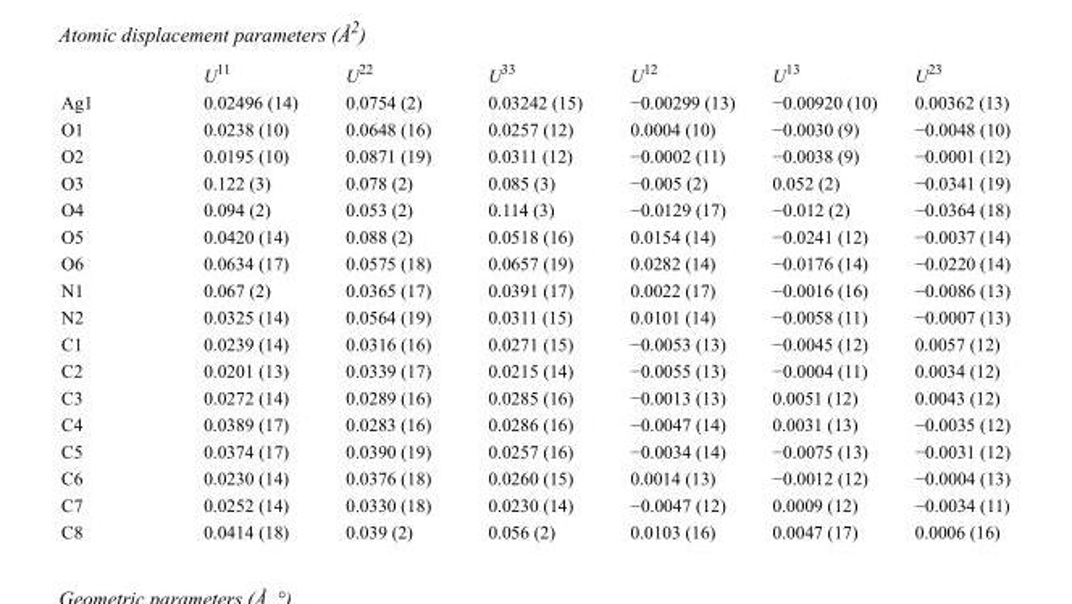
<table><thead><tr><td></td><td>U<sup>11</sup></td><td>U<sup>22</sup></td><td>U<sup>33</sup></td><td>U<sup>12</sup></td><td>U<sup>13</sup></td><td>U<sup>23</sup></td></tr></thead><tbody><tr><td>Ag1</td><td>0.02496 (14)</td><td>0.0754 (2)</td><td>0.03242 (15)</td><td>−0.00299 (13)</td><td>−0.00920 (10)</td><td>0.00362 (13)</td></tr><tr><td>O1</td><td>0.0238 (10)</td><td>0.0648 (16)</td><td>0.0257 (12)</td><td>0.0004 (10)</td><td>−0.0030 (9)</td><td>−0.0048 (10)</td></tr><tr><td>O2</td><td>0.0195 (10)</td><td>0.0871 (19)</td><td>0.0311 (12)</td><td>−0.0002 (11)</td><td>−0.0038 (9)</td><td>−0.0001 (12)</td></tr><tr><td>O3</td><td>0.122 (3)</td><td>0.078 (2)</td><td>0.085 (3)</td><td>−0.005 (2)</td><td>0.052 (2)</td><td>−0.0341 (19)</td></tr><tr><td>O4</td><td>0.094 (2)</td><td>0.053 (2)</td><td>0.114 (3)</td><td>−0.0129 (17)</td><td>−0.012 (2)</td><td>−0.0364 (18)</td></tr><tr><td>O5</td><td>0.0420 (14)</td><td>0.088 (2)</td><td>0.0518 (16)</td><td>0.0154 (14)</td><td>−0.0241 (12)</td><td>−0.0037 (14)</td></tr><tr><td>O6</td><td>0.0634 (17)</td><td>0.0575 (18)</td><td>0.0657 (19)</td><td>0.0282 (14)</td><td>−0.0176 (14)</td><td>−0.0220 (14)</td></tr><tr><td>N1</td><td>0.067 (2)</td><td>0.0365 (17)</td><td>0.0391 (17)</td><td>0.0022 (17)</td><td>−0.0016 (16)</td><td>−0.0086 (13)</td></tr><tr><td>N2</td><td>0.0325 (14)</td><td>0.0564 (19)</td><td>0.0311 (15)</td><td>0.0101 (14)</td><td>−0.0058 (11)</td><td>−0.0007 (13)</td></tr><tr><td>C1</td><td>0.0239 (14)</td><td>0.0316 (16)</td><td>0.0271 (15)</td><td>−0.0053 (13)</td><td>−0.0045 (12)</td><td>0.0057 (12)</td></tr><tr><td>C2</td><td>0.0201 (13)</td><td>0.0339 (17)</td><td>0.0215 (14)</td><td>−0.0055 (13)</td><td>−0.0004 (11)</td><td>0.0034 (12)</td></tr><tr><td>C3</td><td>0.0272 (14)</td><td>0.0289 (16)</td><td>0.0285 (16)</td><td>−0.0013 (13)</td><td>0.0051 (12)</td><td>0.0043 (12)</td></tr><tr><td>C4</td><td>0.0389 (17)</td><td>0.0283 (16)</td><td>0.0286 (16)</td><td>−0.0047 (14)</td><td>0.0031 (13)</td><td>−0.0035 (12)</td></tr><tr><td>C5</td><td>0.0374 (17)</td><td>0.0390 (19)</td><td>0.0257 (16)</td><td>−0.0034 (14)</td><td>−0.0075 (13)</td><td>−0.0031 (12)</td></tr><tr><td>C6</td><td>0.0230 (14)</td><td>0.0376 (18)</td><td>0.0260 (15)</td><td>0.0014 (13)</td><td>−0.0012 (12)</td><td>−0.0004 (13)</td></tr><tr><td>C7</td><td>0.0252 (14)</td><td>0.0330 (18)</td><td>0.0230 (14)</td><td>−0.0047 (12)</td><td>0.0009 (12)</td><td>−0.0034 (11)</td></tr><tr><td>C8</td><td>0.0414 (18)</td><td>0.039 (2)</td><td>0.056 (2)</td><td>0.0103 (16)</td><td>0.0047 (17)</td><td>0.0006 (16)</td></tr></tbody></table>